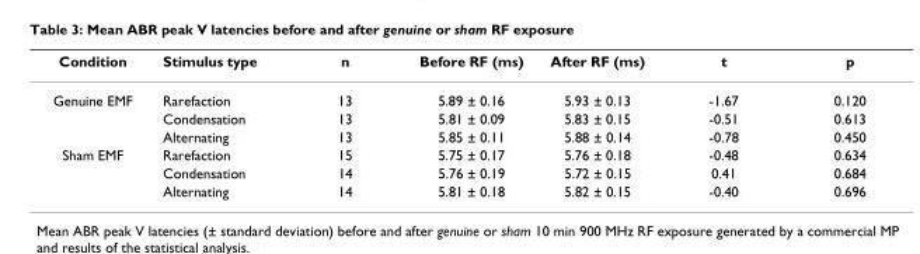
<table><thead><tr><td>Condition</td><td>Stimulus type</td><td>n</td><td>Before RF (ms)</td><td>After RF (ms)</td><td>t</td><td>p</td></tr></thead><tbody><tr><td rowspan="3">Genuine EMF</td><td>Rarefaction</td><td>13</td><td>5.89 ± 0.16</td><td>5.93 ± 0.13</td><td>-1.67</td><td>0.120</td></tr><tr><td>Condensation</td><td>13</td><td>5.81 ± 0.09</td><td>5.83 ± 0.15</td><td>-0.51</td><td>0.613</td></tr><tr><td>Alternating</td><td>13</td><td>5.85 ± 0.11</td><td>5.88 ± 0.14</td><td>-0.78</td><td>0.450</td></tr><tr><td rowspan="3">Sham EMF</td><td>Rarefaction</td><td>15</td><td>5.75 ± 0.17</td><td>5.76 ± 0.18</td><td>-0.48</td><td>0.634</td></tr><tr><td>Condensation</td><td>14</td><td>5.76 ± 0.19</td><td>5.72 ± 0.15</td><td>0.41</td><td>0.684</td></tr><tr><td>Alternating</td><td>14</td><td>5.81 ± 0.18</td><td>5.82 ± 0.15</td><td>-0.40</td><td>0.696</td></tr></tbody></table>